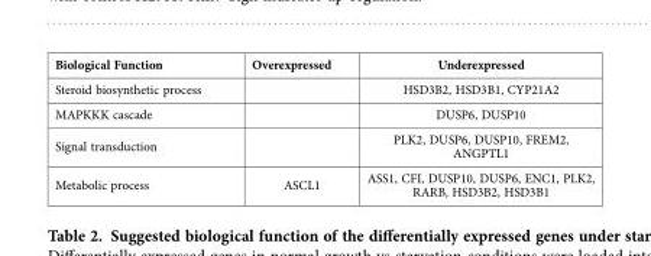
<table><tbody><tr><td>Biological Function</td><td>Overexpressed</td><td>Underexpressed</td></tr><tr><td>Steroid biosynthetic process</td><td></td><td>HSD3B2, HSD3B1, CYP21A2</td></tr><tr><td>MAPKKK cascade</td><td></td><td>DUSP6, DUSP10</td></tr><tr><td>Signal transduction</td><td></td><td>PLK2, DUSP6, DUSP10, FREM2, ANGPTL1</td></tr><tr><td>Metabolic process</td><td>ASCL1</td><td>ASS1, CFI, DUSP10, DUSP6, ENC1, PLK2, RARB, HSD3B2, HSD3B1</td></tr></tbody></table>